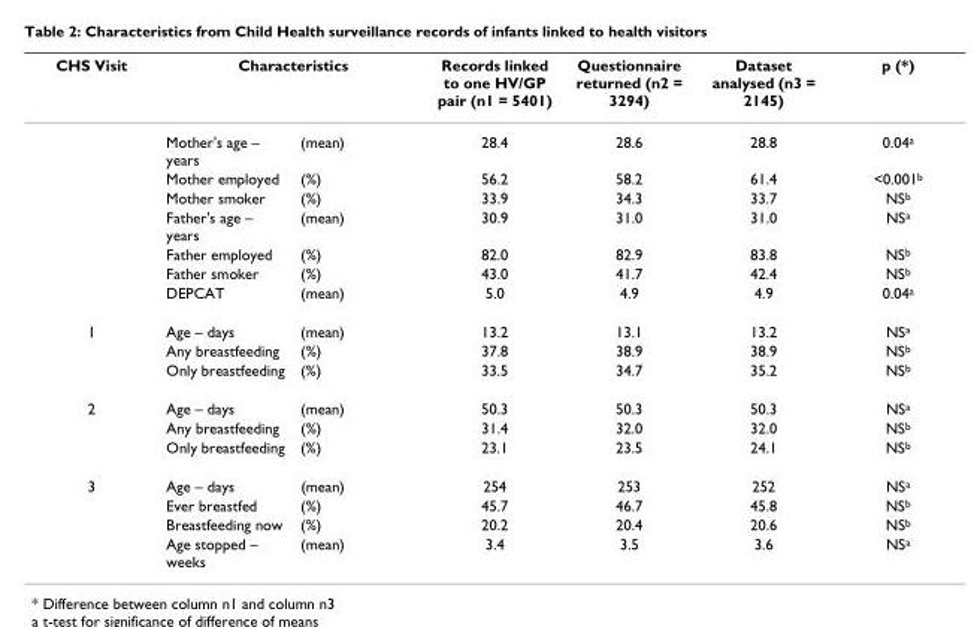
<table><thead><tr><td rowspan="2">CHS Visit</td><td colspan="2">Characteristics</td><td rowspan="2">Records linked to one HV/GP pair (n1 = 5401) 28.4</td><td rowspan="2">Questionnaire returned (n2 = 3294) 28.6</td><td rowspan="2">Dataset analysed (n3 = 2145) 28.8</td><td rowspan="2">p (*) 0.04<sup>a</sup></td></tr><tr><td>Mother&#x27;s age – years</td><td>(mean)</td></tr></thead><tbody><tr><td></td><td>Mother employed</td><td>(%)</td><td>56.2</td><td>58.2</td><td>61.4</td><td>&lt;0.001<sup>b</sup></td></tr><tr><td></td><td>Mother smoker</td><td>(%)</td><td>33.9</td><td>34.3</td><td>33.7</td><td>NS<sup>b</sup></td></tr><tr><td></td><td>Father&#x27;s age – years</td><td>(mean)</td><td>30.9</td><td>31.0</td><td>31.0</td><td>NS<sup>a</sup></td></tr><tr><td></td><td>Father employed</td><td>(%)</td><td>82.0</td><td>82.9</td><td>83.8</td><td>NS<sup>b</sup></td></tr><tr><td></td><td>Father smoker</td><td>(%)</td><td>43.0</td><td>41.7</td><td>42.4</td><td>NS<sup>b</sup></td></tr><tr><td></td><td>DEPCAT</td><td>(mean)</td><td>5.0</td><td>4.9</td><td>4.9</td><td>0.04<sup>a</sup></td></tr><tr><td rowspan="3">1</td><td>Age – days</td><td>(mean)</td><td>13.2</td><td>13.1</td><td>13.2</td><td>NS<sup>a</sup></td></tr><tr><td>Any breastfeeding</td><td>(%)</td><td>37.8</td><td>38.9</td><td>38.9</td><td>NS<sup>b</sup></td></tr><tr><td>Only breastfeeding</td><td>(%)</td><td>33.5</td><td>34.7</td><td>35.2</td><td>NS<sup>b</sup></td></tr><tr><td rowspan="3">2</td><td>Age – days</td><td>(mean)</td><td>50.3</td><td>50.3</td><td>50.3</td><td>NS<sup>a</sup></td></tr><tr><td>Any breastfeeding</td><td>(%)</td><td>31.4</td><td>32.0</td><td>32.0</td><td>NS<sup>b</sup></td></tr><tr><td>Only breastfeeding</td><td>(%)</td><td>23.1</td><td>23.5</td><td>24.1</td><td>NS<sup>b</sup></td></tr><tr><td rowspan="4">3</td><td>Age – days</td><td>(mean)</td><td>254</td><td>253</td><td>252</td><td>NS<sup>a</sup></td></tr><tr><td>Ever breastfed</td><td>(%)</td><td>45.7</td><td>46.7</td><td>45.8</td><td>NS<sup>b</sup></td></tr><tr><td>Breastfeeding now</td><td>(%)</td><td>20.2</td><td>20.4</td><td>20.6</td><td>NS<sup>b</sup></td></tr><tr><td>Age stopped – weeks</td><td>(mean)</td><td>3.4</td><td>3.5</td><td>3.6</td><td>NS<sup>a</sup></td></tr></tbody></table>